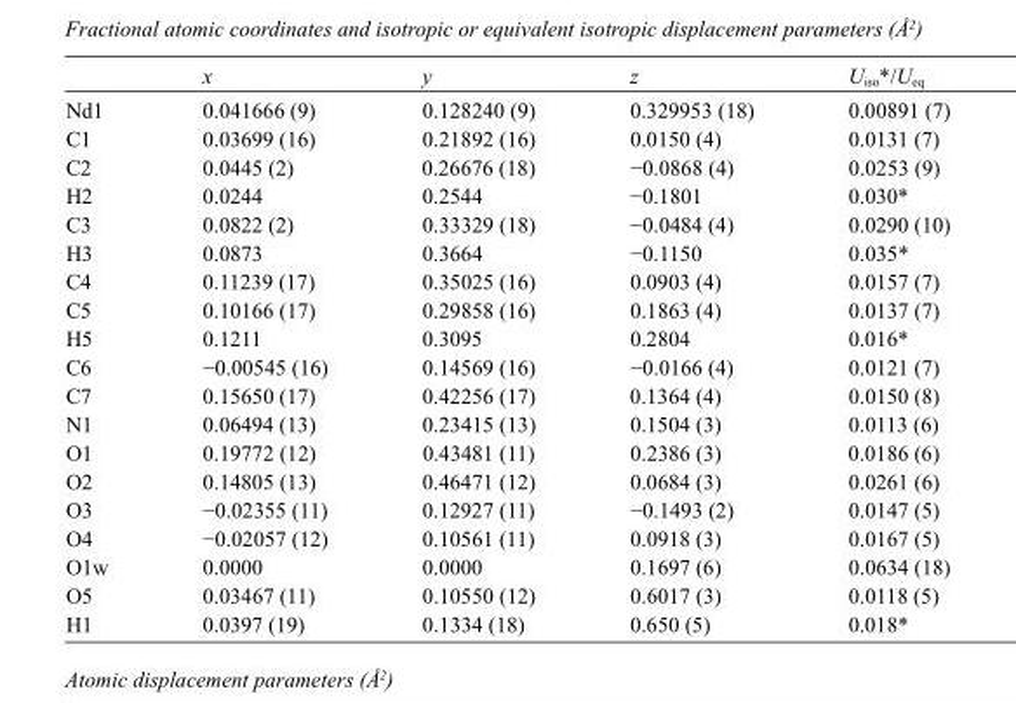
<table><thead><tr><td></td><td>x</td><td>y</td><td>z</td><td>U<sub>iso</sub>*/U<sub>eq</sub></td></tr></thead><tbody><tr><td>Nd1</td><td>0.041666 (9)</td><td>0.128240 (9)</td><td>0.329953 (18)</td><td>0.00891 (7)</td></tr><tr><td>C1</td><td>0.03699 (16)</td><td>0.21892 (16)</td><td>0.0150 (4)</td><td>0.0131 (7)</td></tr><tr><td>C2</td><td>0.0445 (2)</td><td>0.26676 (18)</td><td>−0.0868 (4)</td><td>0.0253 (9)</td></tr><tr><td>H2</td><td>0.0244</td><td>0.2544</td><td>−0.1801</td><td>0.030*</td></tr><tr><td>C3</td><td>0.0822 (2)</td><td>0.33329 (18)</td><td>−0.0484 (4)</td><td>0.0290 (10)</td></tr><tr><td>H3</td><td>0.0873</td><td>0.3664</td><td>−0.1150</td><td>0.035*</td></tr><tr><td>C4</td><td>0.11239 (17)</td><td>0.35025 (16)</td><td>0.0903 (4)</td><td>0.0157 (7)</td></tr><tr><td>C5</td><td>0.10166 (17)</td><td>0.29858 (16)</td><td>0.1863 (4)</td><td>0.0137 (7)</td></tr><tr><td>H5</td><td>0.1211</td><td>0.3095</td><td>0.2804</td><td>0.016*</td></tr><tr><td>C6</td><td>−0.00545 (16)</td><td>0.14569 (16)</td><td>−0.0166 (4)</td><td>0.0121 (7)</td></tr><tr><td>C7</td><td>0.15650 (17)</td><td>0.42256 (17)</td><td>0.1364 (4)</td><td>0.0150 (8)</td></tr><tr><td>N1</td><td>0.06494 (13)</td><td>0.23415 (13)</td><td>0.1504 (3)</td><td>0.0113 (6)</td></tr><tr><td>O1</td><td>0.19772 (12)</td><td>0.43481 (11)</td><td>0.2386 (3)</td><td>0.0186 (6)</td></tr><tr><td>O2</td><td>0.14805 (13)</td><td>0.46471 (12)</td><td>0.0684 (3)</td><td>0.0261 (6)</td></tr><tr><td>O3</td><td>−0.02355 (11)</td><td>0.12927 (11)</td><td>−0.1493 (2)</td><td>0.0147 (5)</td></tr><tr><td>O4</td><td>−0.02057 (12)</td><td>0.10561 (11)</td><td>0.0918 (3)</td><td>0.0167 (5)</td></tr><tr><td>O1w</td><td>0.0000</td><td>0.0000</td><td>0.1697 (6)</td><td>0.0634 (18)</td></tr><tr><td>O5</td><td>0.03467 (11)</td><td>0.10550 (12)</td><td>0.6017 (3)</td><td>0.0118 (5)</td></tr><tr><td>H1</td><td>0.0397 (19)</td><td>0.1334 (18)</td><td>0.650 (5)</td><td>0.018*</td></tr></tbody></table>